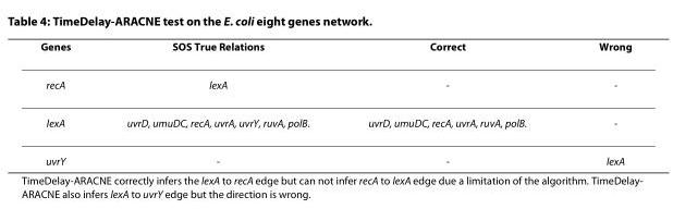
<table><thead><tr><td>Genes</td><td>SOS True Relations</td><td>Correct</td><td>Wrong</td></tr></thead><tbody><tr><td>recA</td><td>lexA</td><td>-</td><td>-</td></tr><tr><td>lexA</td><td>uvrD, umuDC, recA, uvrA, uvrY, ruvA, polB.</td><td>uvrD, umuDC, recA, uvrA, ruvA, polB.</td><td>-</td></tr><tr><td>uvrY</td><td>-</td><td>-</td><td>lexA</td></tr></tbody></table>